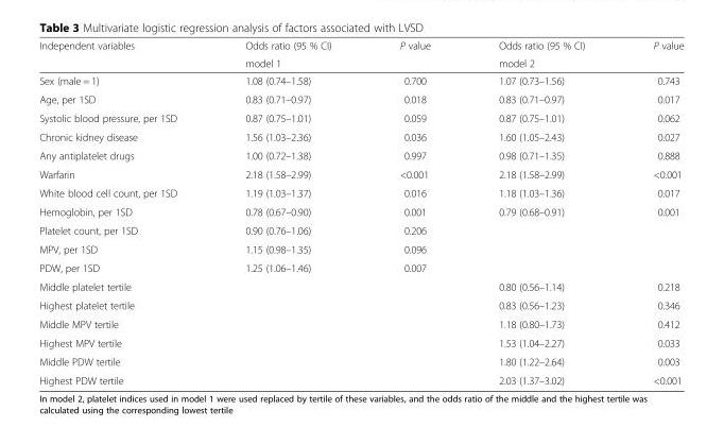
<table><thead><tr><td rowspan="2">Independent variables</td><td>Odds ratio (95 % CI)</td><td>P value</td><td>Odds ratio (95 % CI)</td><td>P value</td></tr><tr><td colspan="2">model 1</td><td colspan="2">model 2</td></tr></thead><tbody><tr><td>Sex (male = 1)</td><td>1.08 (0.74–1.58)</td><td>0.700</td><td>1.07 (0.73–1.56)</td><td>0.743</td></tr><tr><td>Age, per 1SD</td><td>0.83 (0.71–0.97)</td><td>0.018</td><td>0.83 (0.71–0.97)</td><td>0.017</td></tr><tr><td>Systolic blood pressure, per 1SD</td><td>0.87 (0.75–1.01)</td><td>0.059</td><td>0.87 (0.75–1.01)</td><td>0.062</td></tr><tr><td>Chronic kidney disease</td><td>1.56 (1.03–2.36)</td><td>0.036</td><td>1.60 (1.05–2.43)</td><td>0.027</td></tr><tr><td>Any antiplatelet drugs</td><td>1.00 (0.72–1.38)</td><td>0.997</td><td>0.98 (0.71–1.35)</td><td>0.888</td></tr><tr><td>Warfarin</td><td>2.18 (1.58–2.99)</td><td>&lt;0.001</td><td>2.18 (1.58–2.99)</td><td>&lt;0.001</td></tr><tr><td>White blood cell count, per 1SD</td><td>1.19 (1.03–1.37)</td><td>0.016</td><td>1.18 (1.03–1.36)</td><td>0.017</td></tr><tr><td>Hemoglobin, per 1SD</td><td>0.78 (0.67–0.90)</td><td>0.001</td><td>0.79 (0.68–0.91)</td><td>0.001</td></tr><tr><td>Platelet count, per 1SD</td><td>0.90 (0.76–1.06)</td><td>0.206</td><td></td><td></td></tr><tr><td>MPV, per 1SD</td><td>1.15 (0.98–1.35)</td><td>0.096</td><td></td><td></td></tr><tr><td>PDW, per 1SD</td><td>1.25 (1.06–1.46)</td><td>0.007</td><td></td><td></td></tr><tr><td>Middle platelet tertile</td><td></td><td></td><td>0.80 (0.56–1.14)</td><td>0.218</td></tr><tr><td>Highest platelet tertile</td><td></td><td></td><td>0.83 (0.56–1.23)</td><td>0.346</td></tr><tr><td>Middle MPV tertile</td><td></td><td></td><td>1.18 (0.80–1.73)</td><td>0.412</td></tr><tr><td>Highest MPV tertile</td><td></td><td></td><td>1.53 (1.04–2.27)</td><td>0.033</td></tr><tr><td>Middle PDW tertile</td><td></td><td></td><td>1.80 (1.22–2.64)</td><td>0.003</td></tr><tr><td>Highest PDW tertile</td><td></td><td></td><td>2.03 (1.37–3.02)</td><td>&lt;0.001</td></tr></tbody></table>